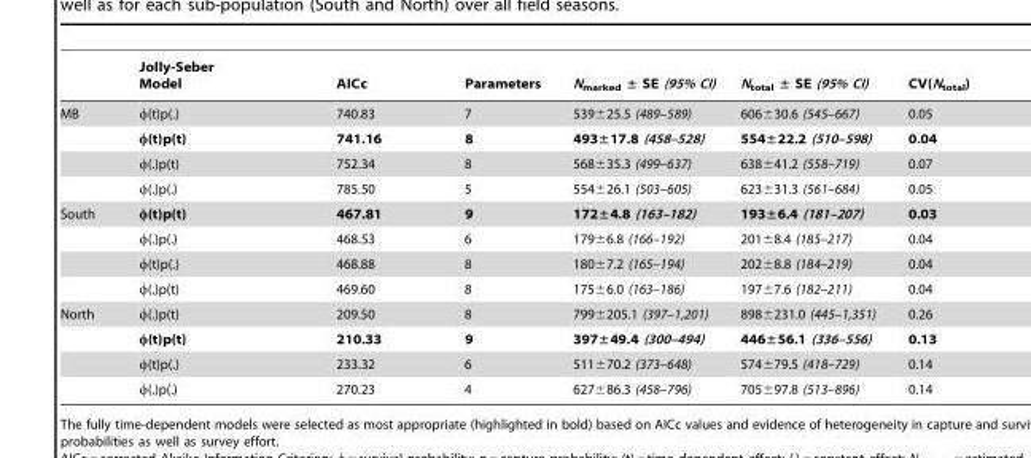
<table><thead><tr><td></td><td>Jolly-Seber Model</td><td>AICc</td><td>Parameters</td><td>N<sub>marked</sub> ± SE (95% CI)</td><td>N<sub>total</sub> ± SE (95% CI)</td><td>CV(N<sub>total</sub>)</td></tr></thead><tbody><tr><td rowspan="4">MB</td><td>φ(t)p(.)</td><td>740.83</td><td>7</td><td>539±25.5 (489–589)</td><td>606±30.6 (545–667)</td><td>0.05</td></tr><tr><td>φ(t)p(t)</td><td>741.16</td><td>8</td><td>493±17.8 (458–528)</td><td>554±22.2 (510–598)</td><td>0.04</td></tr><tr><td>φ(.)p(t)</td><td>752.34</td><td>8</td><td>568±35.3 (499–637)</td><td>638±41.2 (558–719)</td><td>0.07</td></tr><tr><td>φ(.)p(.)</td><td>785.50</td><td>5</td><td>554±26.1 (503–605)</td><td>623±31.3 (561–684)</td><td>0.05</td></tr><tr><td rowspan="4">South</td><td>φ(t)p(t)</td><td>467.81</td><td>9</td><td>172±4.8 (163–182)</td><td>193±6.4 (181–207)</td><td>0.03</td></tr><tr><td>φ(.)p(.)</td><td>468.53</td><td>6</td><td>179±6.8 (166–192)</td><td>201±8.4 (185–217)</td><td>0.04</td></tr><tr><td>φ(t)p(.)</td><td>468.88</td><td>8</td><td>180±7.2 (165–194)</td><td>202±8.8 (184–219)</td><td>0.04</td></tr><tr><td>φ(.)p(t)</td><td>469.60</td><td>8</td><td>175±6.0 (163–186)</td><td>197±7.6 (182–211)</td><td>0.04</td></tr><tr><td rowspan="4">North</td><td>φ(.)p(t)</td><td>209.50</td><td>8</td><td>799±205.1 (397–1,201)</td><td>898±231.0 (445–1,351)</td><td>0.26</td></tr><tr><td>φ(t)p(t)</td><td>210.33</td><td>9</td><td>397±49.4 (300–494)</td><td>446±56.1 (336–556)</td><td>0.13</td></tr><tr><td>φ(t)p(.)</td><td>233.32</td><td>6</td><td>511±70.2 (373–648)</td><td>574±79.5 (418–729)</td><td>0.14</td></tr><tr><td>φ(.)p(.)</td><td>270.23</td><td>4</td><td>627±86.3 (458–796)</td><td>705±97.8 (513–896)</td><td>0.14</td></tr></tbody></table>